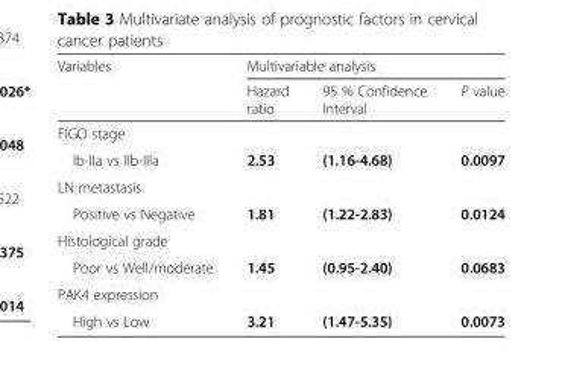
<table><thead><tr><td rowspan="2">Variables</td><td colspan="3">Multivariable analysis</td></tr><tr><td>Hazard ratio</td><td>95 % Confidence Interval</td><td>P value</td></tr></thead><tbody><tr><td colspan="4">FIGO stage</td></tr><tr><td>Ib-IIa vs IIb-IIIa</td><td>2.53</td><td>(1.16-4.68)</td><td>0.0097</td></tr><tr><td colspan="4">LN metastasis</td></tr><tr><td>Positive vs Negative</td><td>1.81</td><td>(1.22-2.83)</td><td>0.0124</td></tr><tr><td colspan="4">Histological grade</td></tr><tr><td>Poor vs Well/moderate</td><td>1.45</td><td>(0.95-2.40)</td><td>0.0683</td></tr><tr><td colspan="4">PAK4 expression</td></tr><tr><td>High vs Low</td><td>3.21</td><td>(1.47-5.35)</td><td>0.0073</td></tr></tbody></table>